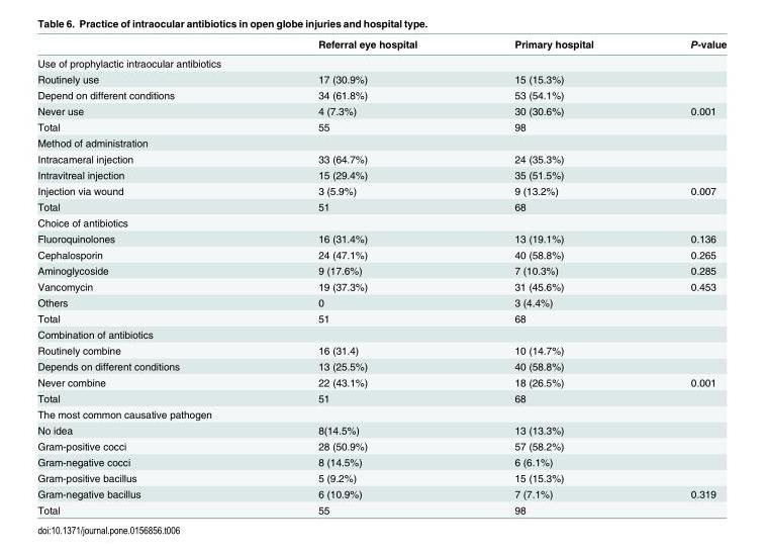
<table><thead><tr><td></td><td>Referral eye hospital</td><td>Primary hospital</td><td>P-value</td></tr></thead><tbody><tr><td colspan="4">Use of prophylactic intraocular antibiotics</td></tr><tr><td>Routinely use</td><td>17 (30.9%)</td><td>15 (15.3%)</td><td></td></tr><tr><td>Depend on different conditions</td><td>34 (61.8%)</td><td>53 (54.1%)</td><td></td></tr><tr><td>Never use</td><td>4 (7.3%)</td><td>30 (30.6%)</td><td>0.001</td></tr><tr><td>Total</td><td>55</td><td>98</td><td></td></tr><tr><td colspan="4">Method of administration</td></tr><tr><td>Intracameral injection</td><td>33 (64.7%)</td><td>24 (35.3%)</td><td></td></tr><tr><td>Intravitreal injection</td><td>15 (29.4%)</td><td>35 (51.5%)</td><td></td></tr><tr><td>Injection via wound</td><td>3 (5.9%)</td><td>9 (13.2%)</td><td>0.007</td></tr><tr><td>Total</td><td>51</td><td>68</td><td></td></tr><tr><td colspan="4">Choice of antibiotics</td></tr><tr><td>Fluoroquinolones</td><td>16 (31.4%)</td><td>13 (19.1%)</td><td>0.136</td></tr><tr><td>Cephalosporin</td><td>24 (47.1%)</td><td>40 (58.8%)</td><td>0.265</td></tr><tr><td>Aminoglycoside</td><td>9 (17.6%)</td><td>7 (10.3%)</td><td>0.285</td></tr><tr><td>Vancomycin</td><td>19 (37.3%)</td><td>31 (45.6%)</td><td>0.453</td></tr><tr><td>Others</td><td>0</td><td>3 (4.4%)</td><td></td></tr><tr><td>Total</td><td>51</td><td>68</td><td></td></tr><tr><td colspan="4">Combination of antibiotics</td></tr><tr><td>Routinely combine</td><td>16 (31.4)</td><td>10 (14.7%)</td><td></td></tr><tr><td>Depends on different conditions</td><td>13 (25.5%)</td><td>40 (58.8%)</td><td></td></tr><tr><td>Never combine</td><td>22 (43.1%)</td><td>18 (26.5%)</td><td>0.001</td></tr><tr><td>Total</td><td>51</td><td>68</td><td></td></tr><tr><td colspan="4">The most common causative pathogen</td></tr><tr><td>No idea</td><td>8(14.5%)</td><td>13 (13.3%)</td><td></td></tr><tr><td>Gram-positive cocci</td><td>28 (50.9%)</td><td>57 (58.2%)</td><td></td></tr><tr><td>Gram-negative cocci</td><td>8 (14.5%)</td><td>6 (6.1%)</td><td></td></tr><tr><td>Gram-positive bacillus</td><td>5 (9.2%)</td><td>15 (15.3%)</td><td></td></tr><tr><td>Gram-negative bacillus</td><td>6 (10.9%)</td><td>7 (7.1%)</td><td>0.319</td></tr><tr><td>Total</td><td>55</td><td>98</td><td></td></tr></tbody></table>